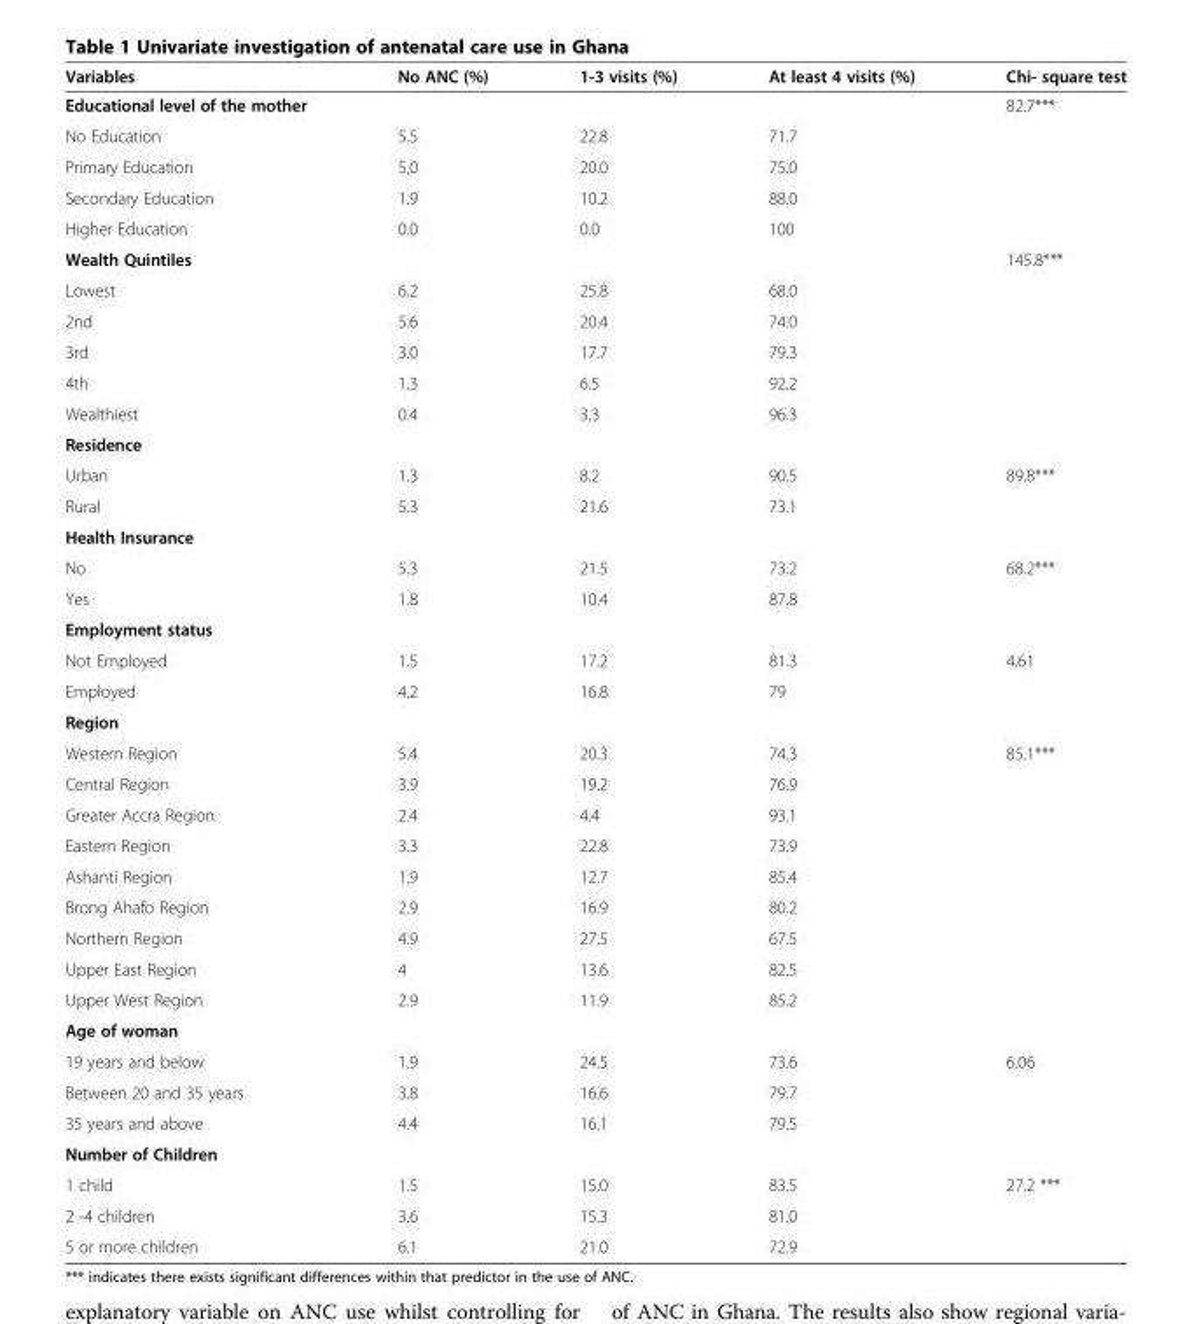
<table><thead><tr><td>Variables</td><td>No ANC (%)</td><td>1-3 visits (%)</td><td>At least 4 visits (%)</td><td>Chi- square test</td></tr></thead><tbody><tr><td>Educational level of the mother</td><td></td><td></td><td></td><td>82.7***</td></tr><tr><td>No Education</td><td>5.5</td><td>22.8</td><td>71.7</td><td></td></tr><tr><td>Primary Education</td><td>5,0</td><td>20.0</td><td>75.0</td><td></td></tr><tr><td>Secondary Education</td><td>1.9</td><td>10.2</td><td>88.0</td><td></td></tr><tr><td>Higher Education</td><td>0.0</td><td>0.0</td><td>100</td><td></td></tr><tr><td>Wealth Quintiles</td><td></td><td></td><td></td><td>145.8***</td></tr><tr><td>Lowest</td><td>6.2</td><td>25.8</td><td>68.0</td><td></td></tr><tr><td>2nd</td><td>5.6</td><td>20.4</td><td>74.0</td><td></td></tr><tr><td>3rd</td><td>3.0</td><td>17.7</td><td>79.3</td><td></td></tr><tr><td>4th</td><td>1.3</td><td>6.5</td><td>92.2</td><td></td></tr><tr><td>Wealthiest</td><td>0.4</td><td>3.3</td><td>96.3</td><td></td></tr><tr><td colspan="5">Residence</td></tr><tr><td>Urban</td><td>1.3</td><td>8.2</td><td>90.5</td><td>89.8***</td></tr><tr><td>Rural</td><td>5.3</td><td>21.6</td><td>73.1</td><td></td></tr><tr><td colspan="5">Health Insurance</td></tr><tr><td>No</td><td>5.3</td><td>21.5</td><td>73.2</td><td>68.2***</td></tr><tr><td>Yes</td><td>1.8</td><td>10.4</td><td>87.8</td><td></td></tr><tr><td colspan="5">Employment status</td></tr><tr><td>Not Employed</td><td>1.5</td><td>17.2</td><td>81.3</td><td>4.61</td></tr><tr><td>Employed</td><td>4.2</td><td>16.8</td><td>79</td><td></td></tr><tr><td colspan="5">Region</td></tr><tr><td>Western Region</td><td>5.4</td><td>20.3</td><td>74.3</td><td>85.1***</td></tr><tr><td>Central Region</td><td>3.9</td><td>19.2</td><td>76.9</td><td></td></tr><tr><td>Greater Accra Region</td><td>2.4</td><td>4.4</td><td>93.1</td><td></td></tr><tr><td>Eastern Region</td><td>3.3</td><td>22.8</td><td>73.9</td><td></td></tr><tr><td>Ashanti Region</td><td>1.9</td><td>12.7</td><td>85.4</td><td></td></tr><tr><td>Brong Ahafo Region</td><td>2.9</td><td>16.9</td><td>80.2</td><td></td></tr><tr><td>Northern Region</td><td>4.9</td><td>27.5</td><td>67.5</td><td></td></tr><tr><td>Upper East Region</td><td>4</td><td>13.6</td><td>82.5</td><td></td></tr><tr><td>Upper West Region</td><td>2.9</td><td>11.9</td><td>85.2</td><td></td></tr><tr><td colspan="5">Age of woman</td></tr><tr><td>19 years and below</td><td>1.9</td><td>24.5</td><td>73.6</td><td>6.06</td></tr><tr><td>Between 20 and 35 years</td><td>3.8</td><td>16.6</td><td>79.7</td><td></td></tr><tr><td>35 years and above</td><td>4.4</td><td>16.1</td><td>79.5</td><td></td></tr><tr><td colspan="5">Number of Children</td></tr><tr><td>1 child</td><td>1.5</td><td>15.0</td><td>83.5</td><td>27.2 ***</td></tr><tr><td>2 -4 children</td><td>3.6</td><td>15.3</td><td>81.0</td><td></td></tr><tr><td>5 or more children</td><td>6.1</td><td>21.0</td><td>72.9</td><td></td></tr></tbody></table>